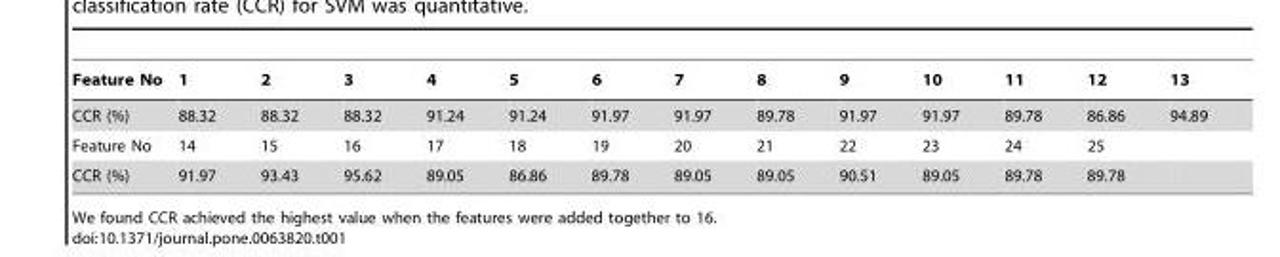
<table><thead><tr><td>Feature No</td><td>1</td><td>2</td><td>3</td><td>4</td><td>5</td><td>6</td><td>7</td><td>8</td><td>9</td><td>10</td><td>11</td><td>12</td><td>13</td></tr></thead><tbody><tr><td>CCR (%)</td><td>88.32</td><td>88.32</td><td>88.32</td><td>91.24</td><td>91.24</td><td>91.97</td><td>91.97</td><td>89.78</td><td>91.97</td><td>91.97</td><td>89.78</td><td>86.86</td><td>94.89</td></tr><tr><td>Feature No</td><td>14</td><td>15</td><td>16</td><td>17</td><td>18</td><td>19</td><td>20</td><td>21</td><td>22</td><td>23</td><td>24</td><td>25</td><td></td></tr><tr><td>CCR (%)</td><td>91.97</td><td>93.43</td><td>95.62</td><td>89.05</td><td>86.86</td><td>89.78</td><td>89.05</td><td>89.05</td><td>90.51</td><td>89.05</td><td>89.78</td><td>89.78</td><td></td></tr></tbody></table>